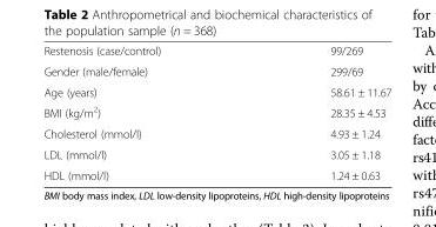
<table><tbody><tr><td>Restenosis (case/control)</td><td>99/269</td></tr><tr><td>Gender (male/female)</td><td>299/69</td></tr><tr><td>Age (years)</td><td>58.61 ± 11.67</td></tr><tr><td>BMI (kg/m<sup>2</sup>)</td><td>28.35 ± 4.53</td></tr><tr><td>Cholesterol (mmol/l)</td><td>4.93 ± 1.24</td></tr><tr><td>LDL (mmol/l)</td><td>3.05 ± 1.18</td></tr><tr><td>HDL (mmol/l)</td><td>1.24 ± 0.63</td></tr></tbody></table>